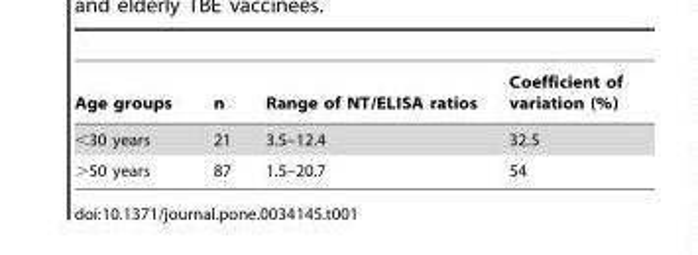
<table><thead><tr><td>Age groups</td><td>n</td><td>Range of NT/ELISA ratios</td><td>Coefficient of variation (%)</td></tr></thead><tbody><tr><td>&lt;30 years</td><td>21</td><td>3.5–12.4</td><td>32.5</td></tr><tr><td>&gt;50 years</td><td>87</td><td>1.5–20.7</td><td>54</td></tr></tbody></table>